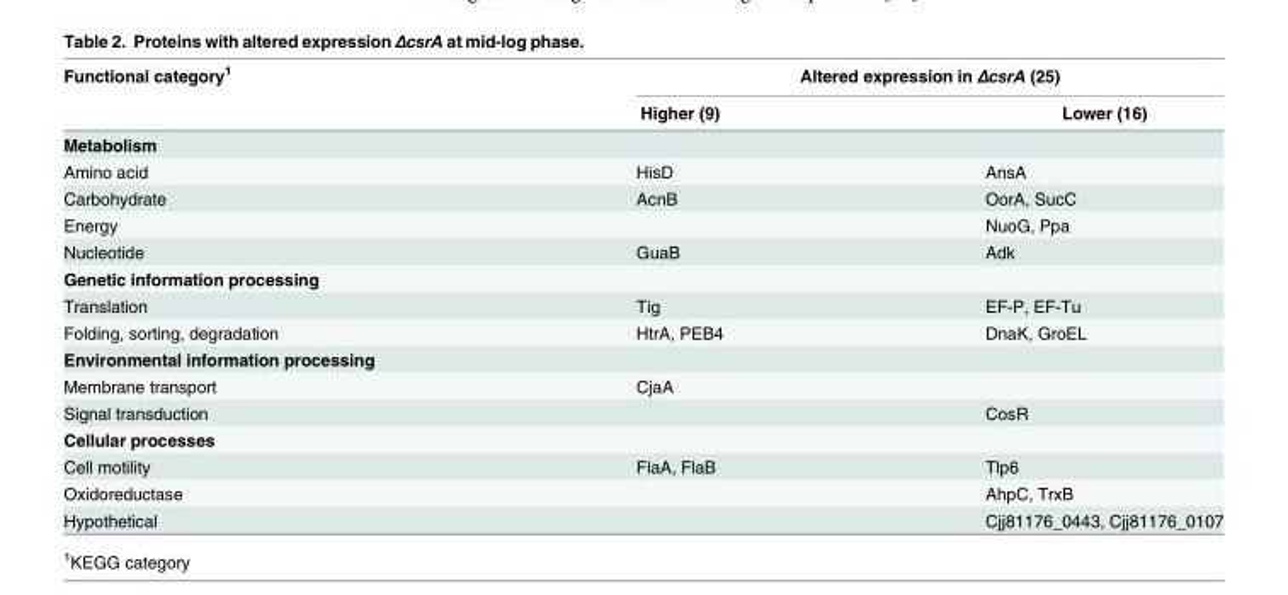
<table><thead><tr><td rowspan="2">Functional category<sup>1</sup></td><td colspan="2">Altered expression in ΔcsrA (25)</td></tr><tr><td>Higher (9)</td><td>Lower (16)</td></tr></thead><tbody><tr><td colspan="3">Metabolism</td></tr><tr><td>Amino acid</td><td>HisD</td><td>AnsA</td></tr><tr><td>Carbohydrate</td><td>AcnB</td><td>OorA, SucC</td></tr><tr><td>Energy</td><td></td><td>NuoG, Ppa</td></tr><tr><td>Nucleotide</td><td>GuaB</td><td>Adk</td></tr><tr><td colspan="3">Genetic information processing</td></tr><tr><td>Translation</td><td>Tig</td><td>EF-P, EF-Tu</td></tr><tr><td>Folding, sorting, degradation</td><td>HtrA, PEB4</td><td>DnaK, GroEL</td></tr><tr><td colspan="3">Environmental information processing</td></tr><tr><td>Membrane transport</td><td>CjaA</td><td></td></tr><tr><td>Signal transduction</td><td></td><td>CosR</td></tr><tr><td colspan="3">Cellular processes</td></tr><tr><td>Cell motility</td><td>FlaA, FlaB</td><td>Tlp6</td></tr><tr><td>Oxidoreductase</td><td></td><td>AhpC, TrxB</td></tr><tr><td>Hypothetical</td><td></td><td>Cjj81176_0443, Cjj81176_0107</td></tr></tbody></table>